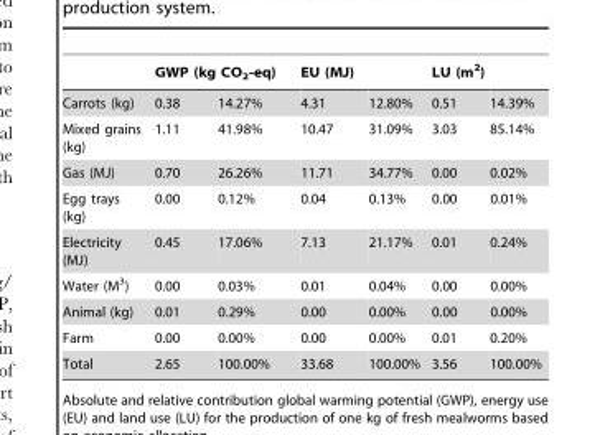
<table><thead><tr><td rowspan="2">Carrots (kg)</td><td colspan="2">GWP (kg CO<sub>2</sub>-eq)</td><td rowspan="2">EU (MJ) 4.31</td><td rowspan="2">12.80%</td><td rowspan="2">LU (m<sup>2</sup>) 0.51</td><td rowspan="2">14.39%</td></tr><tr><td>0.38</td><td>14.27%</td></tr></thead><tbody><tr><td>Mixed grains (kg)</td><td>1.11</td><td>41.98%</td><td>10.47</td><td>31.09%</td><td>3.03</td><td>85.14%</td></tr><tr><td>Gas (MJ)</td><td>0.70</td><td>26.26%</td><td>11.71</td><td>34.77%</td><td>0.00</td><td>0.02%</td></tr><tr><td>Egg trays (kg)</td><td>0.00</td><td>0.12%</td><td>0.04</td><td>0.13%</td><td>0.00</td><td>0.01%</td></tr><tr><td>Electricity (MJ)</td><td>0.45</td><td>17.06%</td><td>7.13</td><td>21.17%</td><td>0.01</td><td>0.24%</td></tr><tr><td>Water (M<sup>3</sup>)</td><td>0.00</td><td>0.03%</td><td>0.01</td><td>0.04%</td><td>0.00</td><td>0.00%</td></tr><tr><td>Animal (kg)</td><td>0.01</td><td>0.29%</td><td>0.00</td><td>0.00%</td><td>0.00</td><td>0.00%</td></tr><tr><td>Farm</td><td>0.00</td><td>0.00%</td><td>0.00</td><td>0.00%</td><td>0.01</td><td>0.20%</td></tr><tr><td>Total</td><td>2.65</td><td>100.00%</td><td>33.68</td><td>100.00%</td><td>3.56</td><td>100.00%</td></tr></tbody></table>